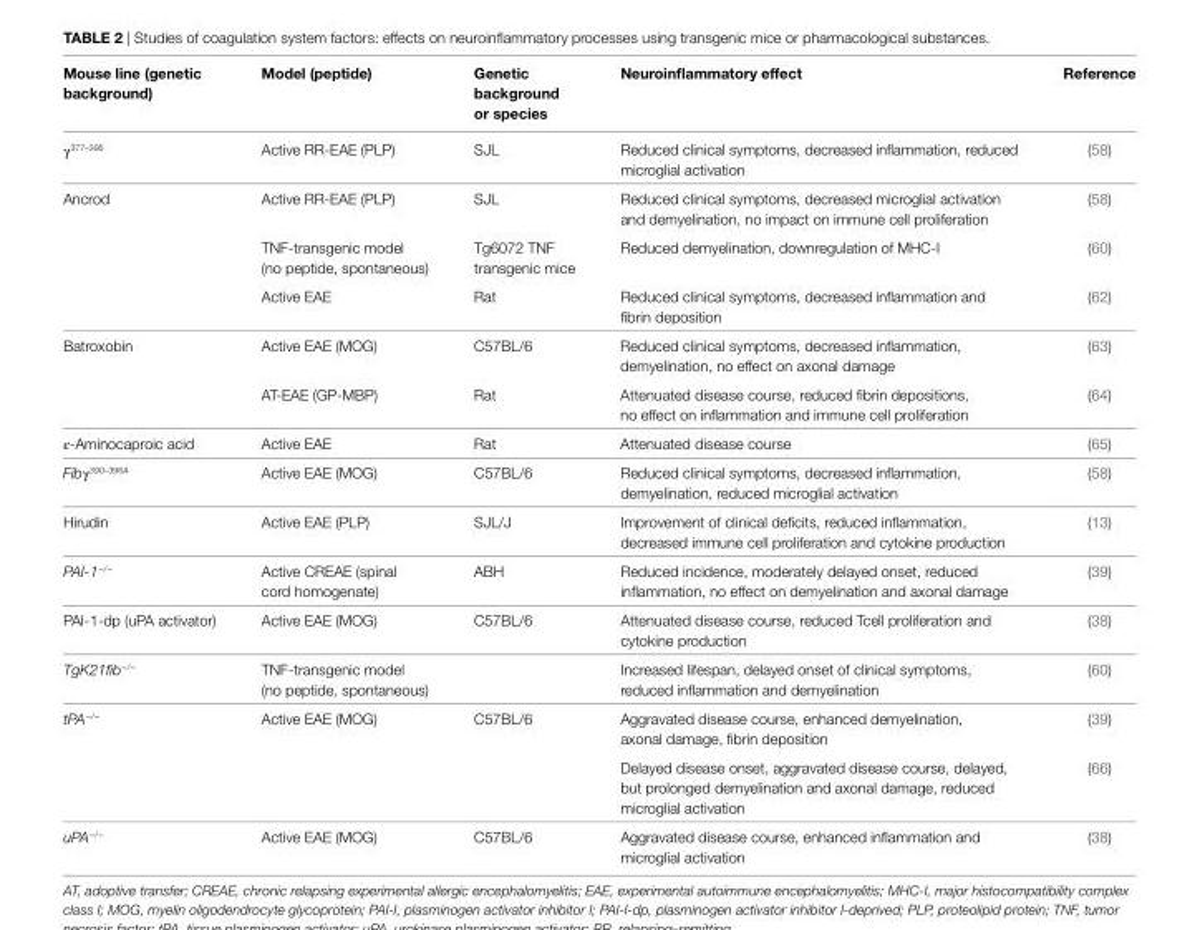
<table><thead><tr><td>mouse line (genetic background)</td><td>model (peptide)</td><td>Genetic background or species</td><td>Neuroinflammatory effect</td><td>Reference</td></tr></thead><tbody><tr><td>γ<sup>377–395</sup></td><td>Active RR-EAE (PLP)</td><td>SJL</td><td>Reduced clinical symptoms, decreased inflammation, reduced microglial activation</td><td>(58)</td></tr><tr><td rowspan="3">Ancrod</td><td>Active RR-EAE (PLP)</td><td>SJL</td><td>Reduced clinical symptoms, decreased microglial activation and demyelination, no impact on immune cell proliferation</td><td>(58)</td></tr><tr><td>TNF-transgenic model (no peptide, spontaneous)</td><td>Tg6072 TNF transgenic mice</td><td>Reduced demyelination, downregulation of MHC-I</td><td>(60)</td></tr><tr><td>Active EAE</td><td>Rat</td><td>Reduced clinical symptoms, decreased inflammation and fibrin deposition</td><td>(62)</td></tr><tr><td rowspan="2">Batroxobin</td><td>Active EAE (MOG)</td><td>C57BL/6</td><td>Reduced clinical symptoms, decreased inflammation, demyelination, no effect on axonal damage</td><td>(63)</td></tr><tr><td>AT-EAE (GP-MBP)</td><td>Rat</td><td>Attenuated disease course, reduced fibrin depositions, no effect on inflammation and immune cell proliferation</td><td>(64)</td></tr><tr><td>ε-Aminocaproic acid</td><td>Active EAE</td><td>Rat</td><td>Attenuated disease course</td><td>(65)</td></tr><tr><td>Fibγ<sup>390–396A</sup></td><td>Active EAE (MOG)</td><td>C57BL/6</td><td>Reduced clinical symptoms, decreased inflammation, demyelination, reduced microglial activation</td><td>(58)</td></tr><tr><td>Hirudin</td><td>Active EAE (PLP)</td><td>SJL/J</td><td>Improvement of clinical deficits, reduced inflammation, decreased immune cell proliferation and cytokine production</td><td>(13)</td></tr><tr><td>PAI-1<sup>−/−</sup></td><td>Active CREAE (spinal cord homogenate)</td><td>ABH</td><td>Reduced incidence, moderately delayed onset, reduced inflammation, no effect on demyelination and axonal damage</td><td>(39)</td></tr><tr><td>PAI-1-dp (uPA activator)</td><td>Active EAE (MOG)</td><td>C57BL/6</td><td>Attenuated disease course, reduced T cell proliferation and cytokine production</td><td>(38)</td></tr><tr><td>TgK21fib<sup>−/−</sup></td><td>TNF-transgenic model (no peptide, spontaneous)</td><td></td><td>Increased lifespan, delayed onset of clinical symptoms, reduced inflammation and demyelination</td><td>(60)</td></tr><tr><td rowspan="2">tPA<sup>−/−</sup></td><td>Active EAE (MOG)</td><td>C57BL/6</td><td>Aggravated disease course, enhanced demyelination, axonal damage, fibrin deposition</td><td>(39)</td></tr><tr><td></td><td></td><td>Delayed disease onset, aggravated disease course, delayed, but prolonged demyelination and axonal damage, reduced microglial activation</td><td>(66)</td></tr><tr><td>uPA<sup>−/−</sup></td><td>Active EAE (MOG)</td><td>C57BL/6</td><td>Aggravated disease course, enhanced inflammation and microglial activation</td><td>(38)</td></tr></tbody></table>